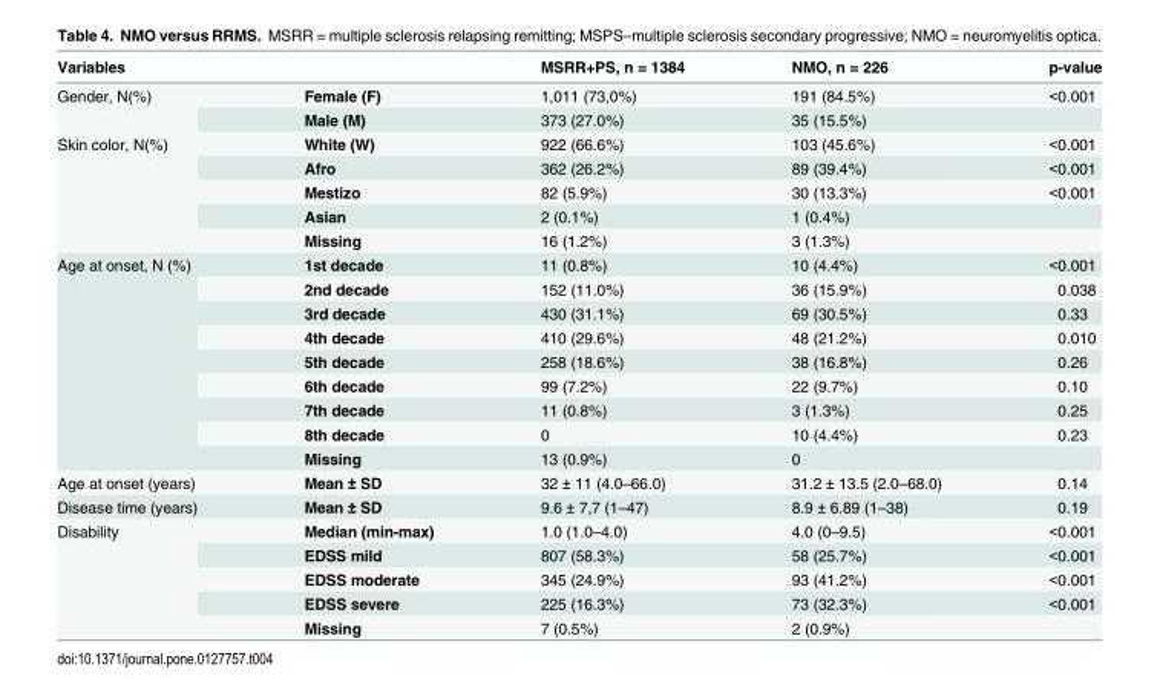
<table><thead><tr><td>Variables</td><td></td><td>MSRR+PS, n = 1384</td><td>NMO, n = 226</td><td>p-value</td></tr></thead><tbody><tr><td rowspan="2">Gender, N(%)</td><td>Female (F)</td><td>1,011 (73,0%)</td><td>191 (84.5%)</td><td>&lt;0.001</td></tr><tr><td>Male (M)</td><td>373 (27.0%)</td><td>35 (15.5%)</td><td></td></tr><tr><td rowspan="5">Skin color, N(%)</td><td>White (W)</td><td>922 (66.6%)</td><td>103 (45.6%)</td><td>&lt;0.001</td></tr><tr><td>Afro</td><td>362 (26.2%)</td><td>89 (39.4%)</td><td>&lt;0.001</td></tr><tr><td>Mestizo</td><td>82 (5.9%)</td><td>30 (13.3%)</td><td>&lt;0.001</td></tr><tr><td>Asian</td><td>2 (0.1%)</td><td>1 (0.4%)</td><td></td></tr><tr><td>Missing</td><td>16 (1.2%)</td><td>3 (1.3%)</td><td></td></tr><tr><td rowspan="9">Age at onset, N (%)</td><td>1st decade</td><td>11 (0.8%)</td><td>10 (4.4%)</td><td>&lt;0.001</td></tr><tr><td>2nd decade</td><td>152 (11.0%)</td><td>36 (15.9%)</td><td>0.038</td></tr><tr><td>3rd decade</td><td>430 (31.1%)</td><td>69 (30.5%)</td><td>0.33</td></tr><tr><td>4th decade</td><td>410 (29.6%)</td><td>48 (21.2%)</td><td>0.010</td></tr><tr><td>5th decade</td><td>258 (18.6%)</td><td>38 (16.8%)</td><td>0.26</td></tr><tr><td>6th decade</td><td>99 (7.2%)</td><td>22 (9.7%)</td><td>0.10</td></tr><tr><td>7th decade</td><td>11 (0.8%)</td><td>3 (1.3%)</td><td>0.25</td></tr><tr><td>8th decade</td><td>0</td><td>10 (4.4%)</td><td>0.23</td></tr><tr><td>Missing</td><td>13 (0.9%)</td><td>0</td><td></td></tr><tr><td>Age at onset (years)</td><td>Mean ± SD</td><td>32 ± 11 (4.0–66.0)</td><td>31.2 ± 13.5 (2.0–68.0)</td><td>0.14</td></tr><tr><td>Disease time (years)</td><td>Mean ± SD</td><td>9.6 ± 7,7 (1–47)</td><td>8.9 ± 6.89 (1–38)</td><td>0.19</td></tr><tr><td rowspan="5">Disability</td><td>Median (min-max)</td><td>1.0 (1.0–4.0)</td><td>4.0 (0–9.5)</td><td>&lt;0.001</td></tr><tr><td>EDSS mild</td><td>807 (58.3%)</td><td>58 (25.7%)</td><td>&lt;0.001</td></tr><tr><td>EDSS moderate</td><td>345 (24.9%)</td><td>93 (41.2%)</td><td>&lt;0.001</td></tr><tr><td>EDSS severe</td><td>225 (16.3%)</td><td>73 (32.3%)</td><td>&lt;0.001</td></tr><tr><td>Missing</td><td>7 (0.5%)</td><td>2 (0.9%)</td><td></td></tr></tbody></table>